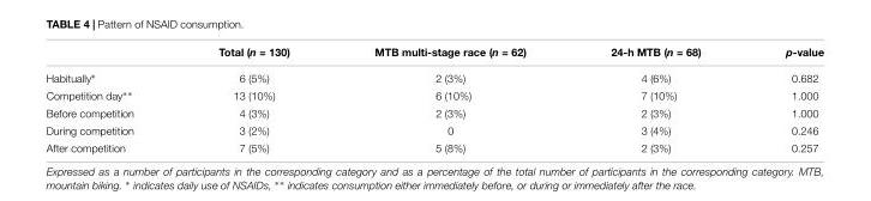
<table><thead><tr><td></td><td>Total (n = 130)</td><td>MTB multi-stage race (n = 62)</td><td>24-h MTB (n = 68)</td><td>p-value</td></tr></thead><tbody><tr><td>Habitually∗</td><td>6 (5%)</td><td>2 (3%)</td><td>4 (6%)</td><td>0.682</td></tr><tr><td>Competition day∗∗</td><td>13 (10%)</td><td>6 (10%)</td><td>7 (10%)</td><td>1.000</td></tr><tr><td>Before competition</td><td>4 (3%)</td><td>2 (3%)</td><td>2 (3%)</td><td>1.000</td></tr><tr><td>During competition</td><td>3 (2%)</td><td>0</td><td>3 (4%)</td><td>0.246</td></tr><tr><td>After competition</td><td>7 (5%)</td><td>5 (8%)</td><td>2 (3%)</td><td>0.257</td></tr></tbody></table>